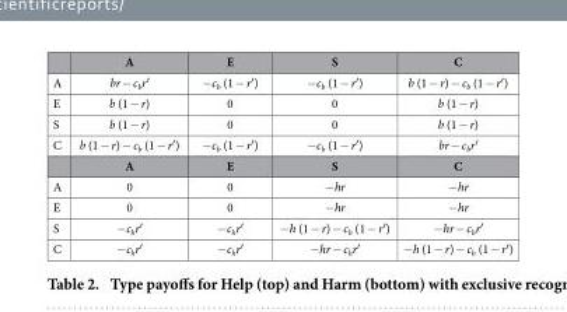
<table><thead><tr><td></td><td>A</td><td>E</td><td>S</td><td>C</td></tr></thead><tbody><tr><td>A</td><td>br − c<sub>b</sub>r′</td><td>−c<sub>b</sub> (1 − r′)</td><td>−c<sub>b</sub> (1 − r′)</td><td>b (1 − r) − c<sub>b</sub> (1 − r′)</td></tr><tr><td>E</td><td>b (1 − r)</td><td>0</td><td>0</td><td>b (1 − r)</td></tr><tr><td>S</td><td>b (1 − r)</td><td>0</td><td>0</td><td>b (1 − r)</td></tr><tr><td rowspan="2">C</td><td>b (1 − r) − c<sub>b</sub> (1 − r′)</td><td>−c<sub>b</sub> (1 − r′)</td><td>−c<sub>b</sub> (1 − r′)</td><td>br − c<sub>b</sub>r′</td></tr><tr><td>A</td><td>E</td><td>S</td><td>C</td></tr><tr><td>A</td><td>0</td><td>0</td><td>−hr</td><td>−hr</td></tr><tr><td>E</td><td>0</td><td>0</td><td>−hr</td><td>−hr</td></tr><tr><td>S</td><td>−c<sub>h</sub>r′</td><td>−c<sub>h</sub>r′</td><td>−h (1 − r) − c<sub>h</sub> (1 − r′)</td><td>−hr − c<sub>h</sub>r′</td></tr><tr><td>C</td><td>−c<sub>h</sub>r′</td><td>−c<sub>h</sub>r′</td><td>−hr − c<sub>h</sub>r′</td><td>−h (1 − r) − c<sub>h</sub> (1 − r′)</td></tr></tbody></table>